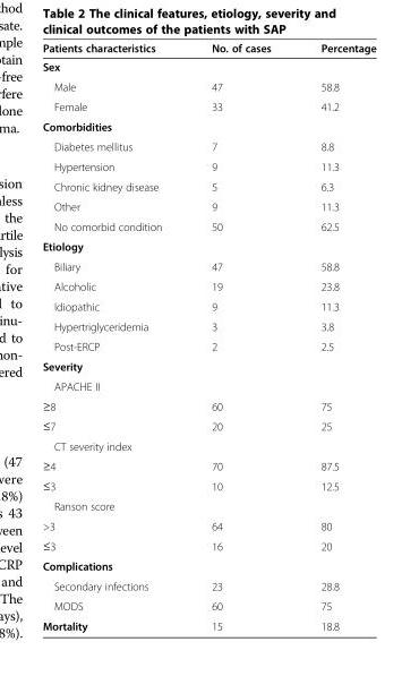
<table><thead><tr><td>Patients characteristics</td><td>No. of cases</td><td>Percentage</td></tr></thead><tbody><tr><td colspan="3">Sex</td></tr><tr><td>Male</td><td>47</td><td>58.8</td></tr><tr><td>Female</td><td>33</td><td>41.2</td></tr><tr><td colspan="3">Comorbidities</td></tr><tr><td>Diabetes mellitus</td><td>7</td><td>8.8</td></tr><tr><td>Hypertension</td><td>9</td><td>11.3</td></tr><tr><td>Chronic kidney disease</td><td>5</td><td>6.3</td></tr><tr><td>Other</td><td>9</td><td>11.3</td></tr><tr><td>No comorbid condition</td><td>50</td><td>62.5</td></tr><tr><td colspan="3">Etiology</td></tr><tr><td>Biliary</td><td>47</td><td>58.8</td></tr><tr><td>Alcoholic</td><td>19</td><td>23.8</td></tr><tr><td>Idiopathic</td><td>9</td><td>11.3</td></tr><tr><td>Hypertriglyceridemia</td><td>3</td><td>3.8</td></tr><tr><td>Post-ERCP</td><td>2</td><td>2.5</td></tr><tr><td colspan="3">Severity</td></tr><tr><td colspan="3">APACHE II</td></tr><tr><td>≥8</td><td>60</td><td>75</td></tr><tr><td>≤7</td><td>20</td><td>25</td></tr><tr><td colspan="3">CT severity index</td></tr><tr><td>≥4</td><td>70</td><td>87.5</td></tr><tr><td>≤3</td><td>10</td><td>12.5</td></tr><tr><td colspan="3">Ranson score</td></tr><tr><td>&gt;3</td><td>64</td><td>80</td></tr><tr><td>≤3</td><td>16</td><td>20</td></tr><tr><td colspan="3">Complications</td></tr><tr><td>Secondary infections</td><td>23</td><td>28.8</td></tr><tr><td>MODS</td><td>60</td><td>75</td></tr><tr><td>Mortality</td><td>15</td><td>18.8</td></tr></tbody></table>